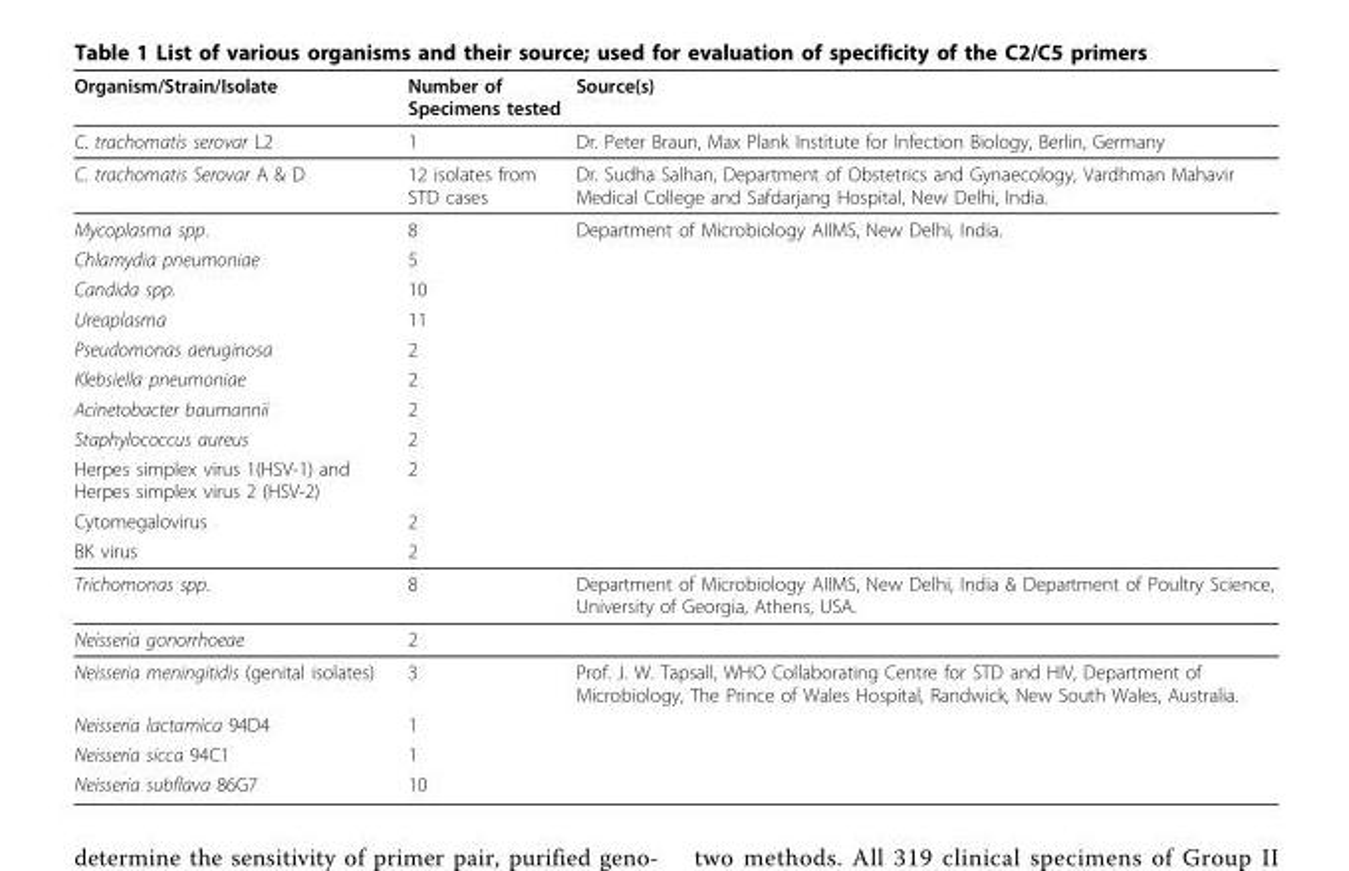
<table><thead><tr><td>Organism/Strain/Isolate</td><td>Number of Specimens tested</td><td>Source(s)</td></tr></thead><tbody><tr><td>C. trachomatis serovar L2</td><td>1</td><td>Dr. Peter Braun, Max Plank Institute for Infection Biology, Berlin, Germany</td></tr><tr><td>C. trachomatis Serovar A &amp; D</td><td>12 isolates from STD cases</td><td>Dr. Sudha Salhan, Department of Obstetrics and Gynaecology, Vardhman Mahavir Medical College and Safdarjang Hospital, New Delhi, India.</td></tr><tr><td>Mycoplasma spp.</td><td>8</td><td>Department of Microbiology AIIMS, New Delhi, India.</td></tr><tr><td>Chlamydia pneumoniae</td><td>5</td><td></td></tr><tr><td>Candida spp.</td><td>10</td><td></td></tr><tr><td>Ureaplasma</td><td>11</td><td></td></tr><tr><td>Pseudomonas aeruginosa</td><td>2</td><td></td></tr><tr><td>Klebsiella pneumoniae</td><td>2</td><td></td></tr><tr><td>Acinetobacter baumannii</td><td>2</td><td></td></tr><tr><td>Staphylococcus aureus</td><td>2</td><td></td></tr><tr><td>Herpes simplex virus 1(HSV-1) and Herpes simplex virus 2 (HSV-2)</td><td>2</td><td></td></tr><tr><td>Cytomegalovirus</td><td>2</td><td></td></tr><tr><td>BK virus</td><td>2</td><td></td></tr><tr><td>Trichomonas spp.</td><td>8</td><td>Department of Microbiology AIIMS, New Delhi, India &amp; Department of Poultry Science, University of Georgia, Athens, USA.</td></tr><tr><td>Neisseria gonorrhoeae</td><td>2</td><td></td></tr><tr><td>Neisseria meningitidis (genital isolates)</td><td>3</td><td>Prof. J. W. Tapsall, WHO Collaborating Centre for STD and HIV, Department of Microbiology, The Prince of Wales Hospital, Randwick, New South Wales, Australia.</td></tr><tr><td>Neisseria lactamica 94D4</td><td>1</td><td></td></tr><tr><td>Neisseria sicca 94C1</td><td>1</td><td></td></tr><tr><td>Neisseria subflava 86G7</td><td>10</td><td></td></tr></tbody></table>